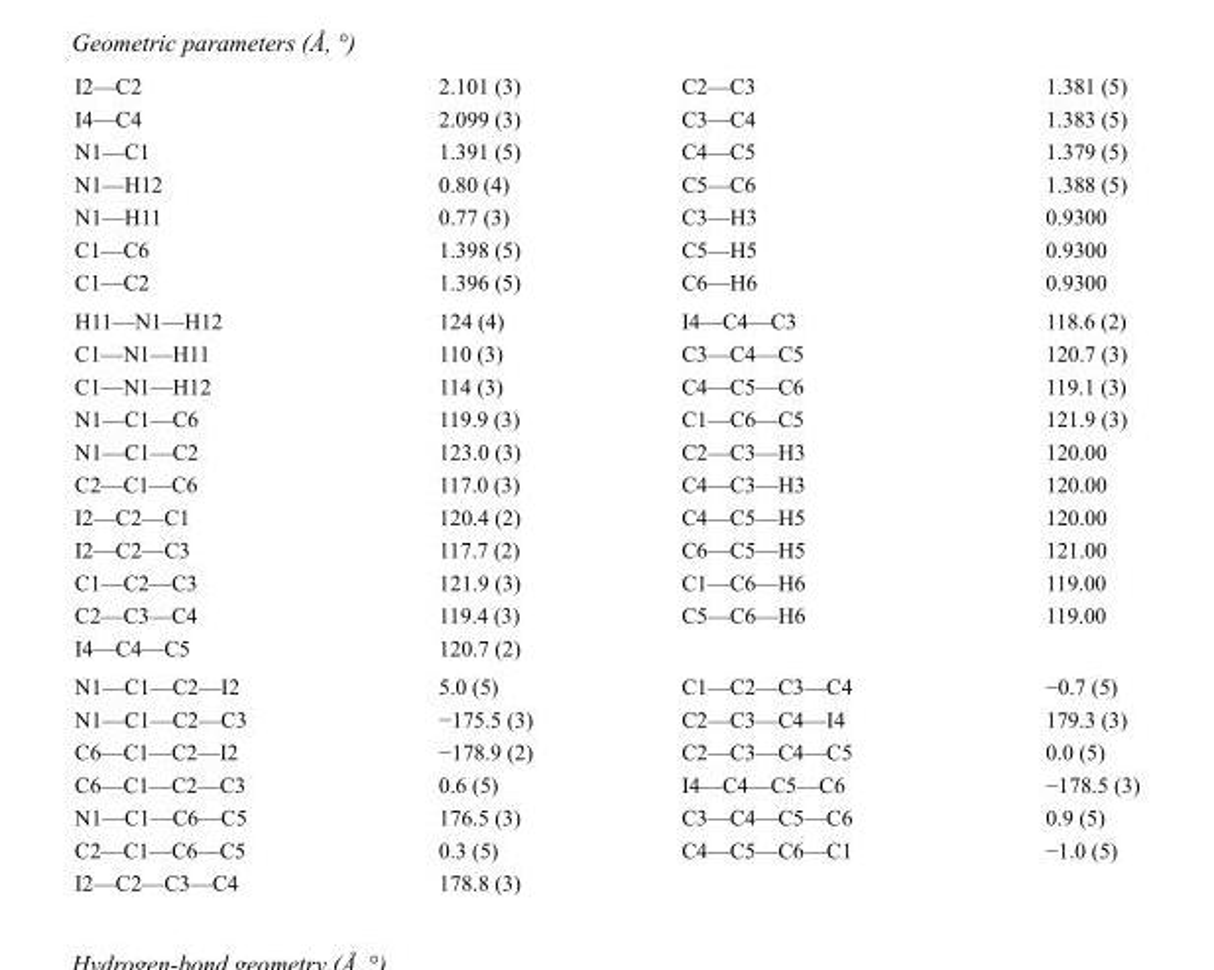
<table><tbody><tr><td>I2—C2</td><td>2.101 (3)</td><td>C2—C3</td><td>1.381 (5)</td></tr><tr><td>I4—C4</td><td>2.099 (3)</td><td>C3—C4</td><td>1.383 (5)</td></tr><tr><td>N1—C1</td><td>1.391 (5)</td><td>C4—C5</td><td>1.379 (5)</td></tr><tr><td>N1—H12</td><td>0.80 (4)</td><td>C5—C6</td><td>1.388 (5)</td></tr><tr><td>N1—H11</td><td>0.77 (3)</td><td>C3—H3</td><td>0.9300</td></tr><tr><td>C1—C6</td><td>1.398 (5)</td><td>C5—H5</td><td>0.9300</td></tr><tr><td>C1—C2</td><td>1.396 (5)</td><td>C6—H6</td><td>0.9300</td></tr><tr><td>H11—N1—H12</td><td>124 (4)</td><td>I4—C4—C3</td><td>118.6 (2)</td></tr><tr><td>C1—N1—H11</td><td>110 (3)</td><td>C3—C4—C5</td><td>120.7 (3)</td></tr><tr><td>C1—N1—H12</td><td>114 (3)</td><td>C4—C5—C6</td><td>119.1 (3)</td></tr><tr><td>N1—C1—C6</td><td>119.9 (3)</td><td>C1—C6—C5</td><td>121.9 (3)</td></tr><tr><td>N1—C1—C2</td><td>123.0 (3)</td><td>C2—C3—H3</td><td>120.00</td></tr><tr><td>C2—C1—C6</td><td>117.0 (3)</td><td>C4—C3—H3</td><td>120.00</td></tr><tr><td>I2—C2—C1</td><td>120.4 (2)</td><td>C4—C5—H5</td><td>120.00</td></tr><tr><td>I2—C2—C3</td><td>117.7 (2)</td><td>C6—C5—H5</td><td>121.00</td></tr><tr><td>C1—C2—C3</td><td>121.9 (3)</td><td>C1—C6—H6</td><td>119.00</td></tr><tr><td>C2—C3—C4</td><td>119.4 (3)</td><td>C5—C6—H6</td><td>119.00</td></tr><tr><td>I4—C4—C5</td><td>120.7 (2)</td><td></td><td></td></tr><tr><td>N1—C1—C2—I2</td><td>5.0 (5)</td><td>C1—C2—C3—C4</td><td>−0.7 (5)</td></tr><tr><td>N1—C1—C2—C3</td><td>−175.5 (3)</td><td>C2—C3—C4—I4</td><td>179.3 (3)</td></tr><tr><td>C6—C1—C2—I2</td><td>−178.9 (2)</td><td>C2—C3—C4—C5</td><td>0.0 (5)</td></tr><tr><td>C6—C1—C2—C3</td><td>0.6 (5)</td><td>I4—C4—C5—C6</td><td>−178.5 (3)</td></tr><tr><td>N1—C1—C6—C5</td><td>176.5 (3)</td><td>C3—C4—C5—C6</td><td>0.9 (5)</td></tr><tr><td>C2—C1—C6—C5</td><td>0.3 (5)</td><td>C4—C5—C6—C1</td><td>−1.0 (5)</td></tr><tr><td>I2—C2—C3—C4</td><td>178.8 (3)</td><td></td><td></td></tr></tbody></table>